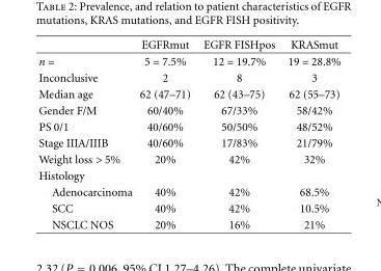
<table><thead><tr><td></td><td>EGFRmut</td><td>EGFR FISHpos</td><td>KRASmut</td></tr></thead><tbody><tr><td>n =</td><td>5 = 7.5%</td><td>12 = 19.7%</td><td>19 = 28.8%</td></tr><tr><td>Inconclusive</td><td>2</td><td>8</td><td>3</td></tr><tr><td>Median age</td><td>62 (47–71)</td><td>62 (43–75)</td><td>62 (55–73)</td></tr><tr><td>Gender F/M</td><td>60/40%</td><td>67/33%</td><td>58/42%</td></tr><tr><td>PS 0/1</td><td>40/60%</td><td>50/50%</td><td>48/52%</td></tr><tr><td>Stage IIIA/IIIB</td><td>40/60%</td><td>17/83%</td><td>21/79%</td></tr><tr><td>Weight loss &gt; 5%</td><td>20%</td><td>42%</td><td>32%</td></tr><tr><td colspan="4">Histology</td></tr><tr><td>Adenocarcinoma</td><td>40%</td><td>42%</td><td>68.5%</td></tr><tr><td>SCC</td><td>40%</td><td>42%</td><td>10.5%</td></tr><tr><td>NSCLC NOS</td><td>20%</td><td>16%</td><td>21%</td></tr></tbody></table>